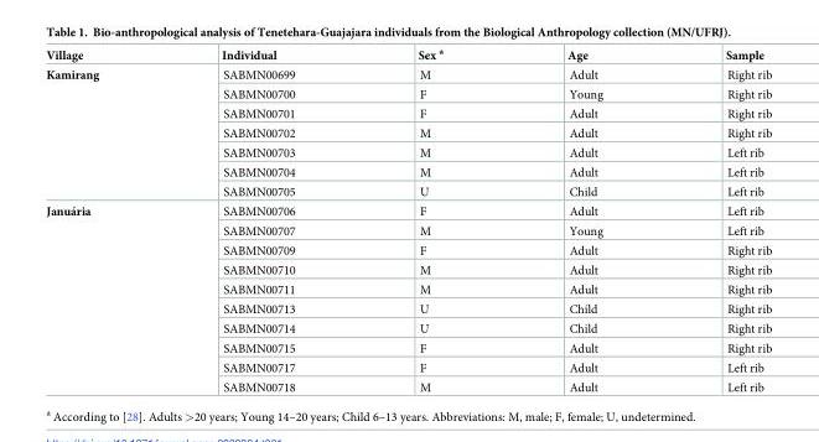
<table><thead><tr><td>Village</td><td>Individual</td><td>Sex <sup>a</sup></td><td>Age</td><td>Sample</td></tr></thead><tbody><tr><td rowspan="7">Kamirang</td><td>SABMN00699</td><td>M</td><td>Adult</td><td>Right rib</td></tr><tr><td>SABMN00700</td><td>F</td><td>Young</td><td>Right rib</td></tr><tr><td>SABMN00701</td><td>F</td><td>Adult</td><td>Right rib</td></tr><tr><td>SABMN00702</td><td>M</td><td>Adult</td><td>Right rib</td></tr><tr><td>SABMN00703</td><td>M</td><td>Adult</td><td>Left rib</td></tr><tr><td>SABMN00704</td><td>M</td><td>Adult</td><td>Left rib</td></tr><tr><td>SABMN00705</td><td>U</td><td>Child</td><td>Left rib</td></tr><tr><td rowspan="10">Janua´ria</td><td>SABMN00706</td><td>F</td><td>Adult</td><td>Left rib</td></tr><tr><td>SABMN00707</td><td>M</td><td>Young</td><td>Left rib</td></tr><tr><td>SABMN00709</td><td>F</td><td>Adult</td><td>Right rib</td></tr><tr><td>SABMN00710</td><td>M</td><td>Adult</td><td>Right rib</td></tr><tr><td>SABMN00711</td><td>M</td><td>Adult</td><td>Right rib</td></tr><tr><td>SABMN00713</td><td>U</td><td>Child</td><td>Right rib</td></tr><tr><td>SABMN00714</td><td>U</td><td>Child</td><td>Right rib</td></tr><tr><td>SABMN00715</td><td>F</td><td>Adult</td><td>Right rib</td></tr><tr><td>SABMN00717</td><td>F</td><td>Adult</td><td>Left rib</td></tr><tr><td>SABMN00718</td><td>M</td><td>Adult</td><td>Left rib</td></tr></tbody></table>